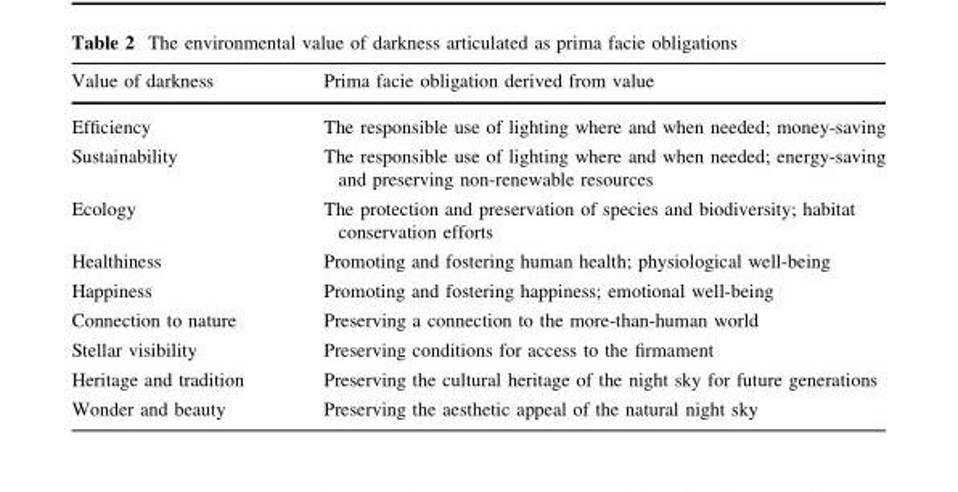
<table><thead><tr><td>Value of darkness</td><td>Prima facie obligation derived from value</td></tr></thead><tbody><tr><td>Efficiency</td><td>The responsible use of lighting where and when needed; money-saving</td></tr><tr><td>Sustainability</td><td>The responsible use of lighting where and when needed; energy-saving and preserving non-renewable resources</td></tr><tr><td>Ecology</td><td>The protection and preservation of species and biodiversity; habitat conservation efforts</td></tr><tr><td>Healthiness</td><td>Promoting and fostering human health; physiological well-being</td></tr><tr><td>Happiness</td><td>Promoting and fostering happiness; emotional well-being</td></tr><tr><td>Connection to nature</td><td>Preserving a connection to the more-than-human world</td></tr><tr><td>Stellar visibility</td><td>Preserving conditions for access to the firmament</td></tr><tr><td>Heritage and tradition</td><td>Preserving the cultural heritage of the night sky for future generations</td></tr><tr><td>Wonder and beauty</td><td>Preserving the aesthetic appeal of the natural night sky</td></tr></tbody></table>